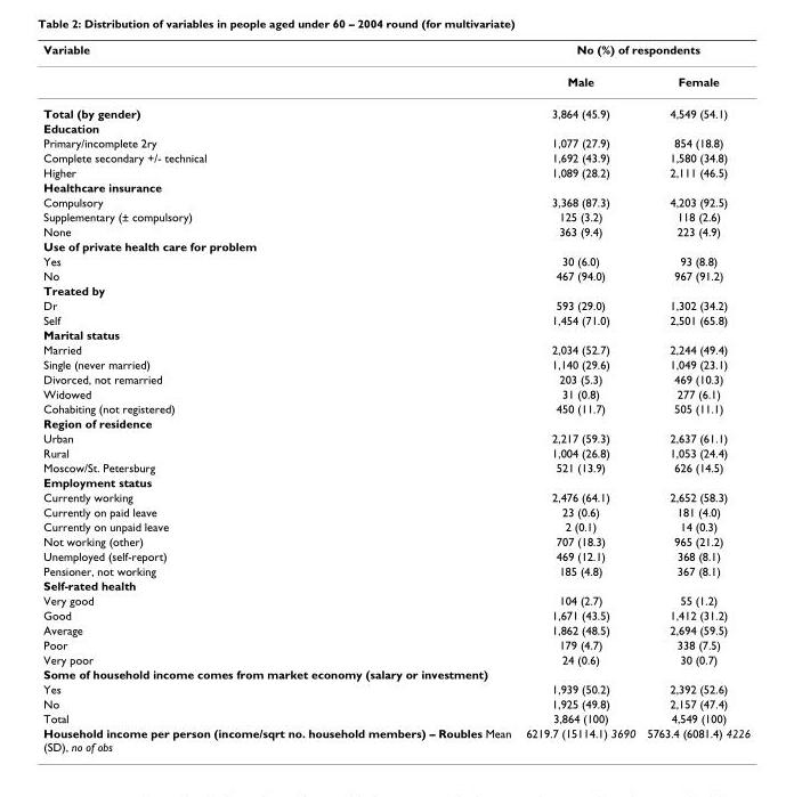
<table><thead><tr><td rowspan="2">Variable</td><td colspan="2">No (%) of respondents</td></tr><tr><td>Male</td><td>Female</td></tr></thead><tbody><tr><td>Total (by gender)</td><td>3,864 (45.9)</td><td>4,549 (54.1)</td></tr><tr><td colspan="3">Education</td></tr><tr><td>Primary/incomplete 2ry</td><td>1,077 (27.9)</td><td>854 (18.8)</td></tr><tr><td>Complete secondary +/- technical</td><td>1,692 (43.9)</td><td>1,580 (34.8)</td></tr><tr><td>Higher</td><td>1,089 (28.2)</td><td>2,111 (46.5)</td></tr><tr><td colspan="3">Healthcare insurance</td></tr><tr><td>Compulsory</td><td>3,368 (87.3)</td><td>4,203 (92.5)</td></tr><tr><td>Supplementary (± compulsory)</td><td>125 (3.2)</td><td>118 (2.6)</td></tr><tr><td>None</td><td>363 (9.4)</td><td>223 (4.9)</td></tr><tr><td colspan="3">Use of private health care for problem</td></tr><tr><td>Yes</td><td>30 (6.0)</td><td>93 (8.8)</td></tr><tr><td>No</td><td>467 (94.0)</td><td>967 (91.2)</td></tr><tr><td colspan="3">Treated by</td></tr><tr><td>Dr</td><td>593 (29.0)</td><td>1,302 (34.2)</td></tr><tr><td>Self</td><td>1,454 (71.0)</td><td>2,501 (65.8)</td></tr><tr><td colspan="3">Marital status</td></tr><tr><td>Married</td><td>2,034 (52.7)</td><td>2,244 (49.4)</td></tr><tr><td>Single (never married)</td><td>1,140 (29.6)</td><td>1,049 (23.1)</td></tr><tr><td>Divorced, not remarried</td><td>203 (5.3)</td><td>469 (10.3)</td></tr><tr><td>Widowed</td><td>31 (0.8)</td><td>277 (6.1)</td></tr><tr><td>Cohabiting (not registered)</td><td>450 (11.7)</td><td>505 (11.1)</td></tr><tr><td colspan="3">Region of residence</td></tr><tr><td>Urban</td><td>2,217 (59.3)</td><td>2,637 (61.1)</td></tr><tr><td>Rural</td><td>1,004 (26.8)</td><td>1,053 (24.4)</td></tr><tr><td>Moscow/St. Petersburg</td><td>521 (13.9)</td><td>626 (14.5)</td></tr><tr><td colspan="3">Employment status</td></tr><tr><td>Currently working</td><td>2,476 (64.1)</td><td>2,652 (58.3)</td></tr><tr><td>Currently on paid leave</td><td>23 (0.6)</td><td>181 (4.0)</td></tr><tr><td>Currently on unpaid leave</td><td>2 (0.1)</td><td>14 (0.3)</td></tr><tr><td>Not working (other)</td><td>707 (18.3)</td><td>965 (21.2)</td></tr><tr><td>Unemployed (self-report)</td><td>469 (12.1)</td><td>368 (8.1)</td></tr><tr><td>Pensioner, not working</td><td>185 (4.8)</td><td>367 (8.1)</td></tr><tr><td colspan="3">Self-rated health</td></tr><tr><td>Very good</td><td>104 (2.7)</td><td>55 (1.2)</td></tr><tr><td>Good</td><td>1,671 (43.5)</td><td>1,412 (31.2)</td></tr><tr><td>Average</td><td>1,862 (48.5)</td><td>2,694 (59.5)</td></tr><tr><td>Poor</td><td>179 (4.7)</td><td>338 (7.5)</td></tr><tr><td>Very poor</td><td>24 (0.6)</td><td>30 (0.7)</td></tr><tr><td colspan="3">Some of household income comes from market economy (salary or investment)</td></tr><tr><td>Yes</td><td>1,939 (50.2)</td><td>2,392 (52.6)</td></tr><tr><td>No</td><td>1,925 (49.8)</td><td>2,157 (47.4)</td></tr><tr><td>Total</td><td>3,864 (100)</td><td>4,549 (100)</td></tr><tr><td>Household income per person (income/sqrt no. household members) – Roubles Mean (SD), no of obs</td><td>6219.7 (15114.1) 3690</td><td>5763.4 (6081.4) 4226</td></tr></tbody></table>